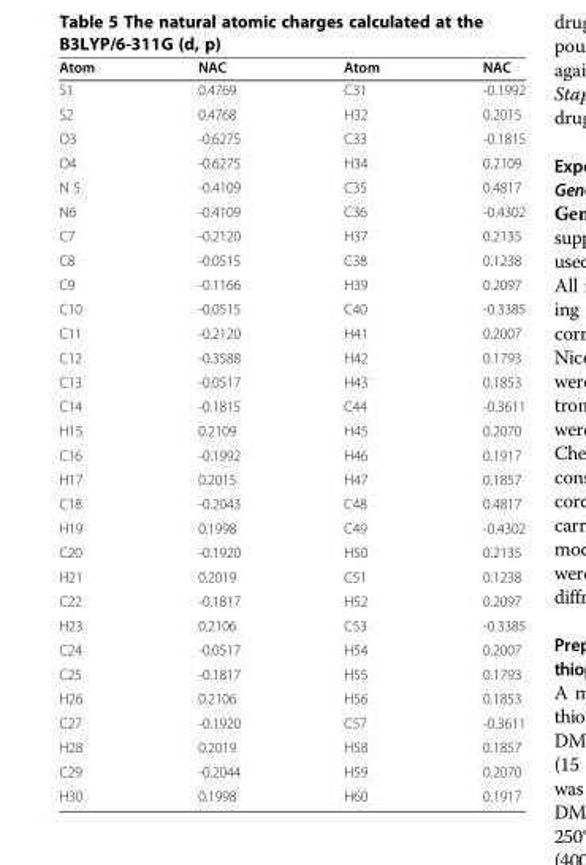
<table><thead><tr><td>Atom</td><td>NAC</td><td>Atom</td><td>NAC</td></tr></thead><tbody><tr><td>S1</td><td>0.4769</td><td>C31</td><td>-0.1992</td></tr><tr><td>S2</td><td>0.4768</td><td>H32</td><td>0.2015</td></tr><tr><td>O3</td><td>-0.6275</td><td>C33</td><td>-0.1815</td></tr><tr><td>O4</td><td>-0.6275</td><td>H34</td><td>0.2109</td></tr><tr><td>N 5</td><td>-0.4109</td><td>C35</td><td>0.4817</td></tr><tr><td>N6</td><td>-0.4109</td><td>C36</td><td>-0.4302</td></tr><tr><td>C7</td><td>-0.2120</td><td>H37</td><td>0.2135</td></tr><tr><td>C8</td><td>-0.0515</td><td>C38</td><td>0.1238</td></tr><tr><td>C9</td><td>-0.1166</td><td>H39</td><td>0.2097</td></tr><tr><td>C10</td><td>-0.0515</td><td>C40</td><td>-0.3385</td></tr><tr><td>C11</td><td>-0.2120</td><td>H41</td><td>0.2007</td></tr><tr><td>C12</td><td>-0.3588</td><td>H42</td><td>0.1793</td></tr><tr><td>C13</td><td>-0.0517</td><td>H43</td><td>0.1853</td></tr><tr><td>C14</td><td>-0.1815</td><td>C44</td><td>-0.3611</td></tr><tr><td>H15</td><td>0.2109</td><td>H45</td><td>0.2070</td></tr><tr><td>C16</td><td>-0.1992</td><td>H46</td><td>0.1917</td></tr><tr><td>H17</td><td>0.2015</td><td>H47</td><td>0.1857</td></tr><tr><td>C18</td><td>-0.2043</td><td>C48</td><td>0.4817</td></tr><tr><td>H19</td><td>0.1998</td><td>C49</td><td>-0.4302</td></tr><tr><td>C20</td><td>-0.1920</td><td>H50</td><td>0.2135</td></tr><tr><td>H21</td><td>0.2019</td><td>C51</td><td>0.1238</td></tr><tr><td>C22</td><td>-0.1817</td><td>H52</td><td>0.2097</td></tr><tr><td>H23</td><td>0.2106</td><td>C53</td><td>-0.3385</td></tr><tr><td>C24</td><td>-0.0517</td><td>H54</td><td>0.2007</td></tr><tr><td>C25</td><td>-0.1817</td><td>H55</td><td>0.1793</td></tr><tr><td>H26</td><td>0.2106</td><td>H56</td><td>0.1853</td></tr><tr><td>C27</td><td>-0.1920</td><td>C57</td><td>-0.3611</td></tr><tr><td>H28</td><td>0.2019</td><td>H58</td><td>0.1857</td></tr><tr><td>C29</td><td>-0.2044</td><td>H59</td><td>0.2070</td></tr><tr><td>H30</td><td>0.1998</td><td>H60</td><td>0.1917</td></tr></tbody></table>